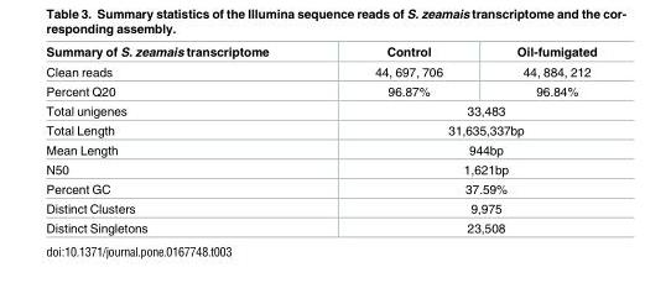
<table><thead><tr><td>Summary of S. zeamais transcriptome</td><td>Control</td><td>Oil-fumigated</td></tr></thead><tbody><tr><td>Clean reads</td><td>44, 697, 706</td><td>44, 884, 212</td></tr><tr><td>Percent Q20</td><td>96.87%</td><td>96.84%</td></tr><tr><td>Total unigenes</td><td colspan="2">33,483</td></tr><tr><td>Total Length</td><td colspan="2">31,635,337bp</td></tr><tr><td>Mean Length</td><td colspan="2">944bp</td></tr><tr><td>N50</td><td colspan="2">1,621bp</td></tr><tr><td>Percent GC</td><td colspan="2">37.59%</td></tr><tr><td>Distinct Clusters</td><td colspan="2">9,975</td></tr><tr><td>Distinct Singletons</td><td colspan="2">23,508</td></tr></tbody></table>